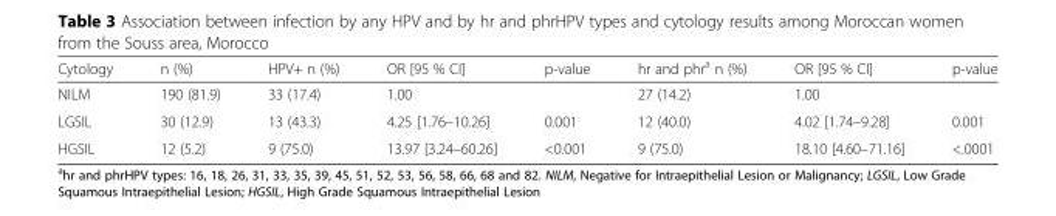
<table><thead><tr><td>Cytology</td><td>n (%)</td><td>HPV+ n (%)</td><td>OR [95 % CI]</td><td>p-value</td><td>hr and phr<sup>a</sup> n (%)</td><td>OR [95 % CI]</td><td>p-value</td></tr></thead><tbody><tr><td>NILM</td><td>190 (81.9)</td><td>33 (17.4)</td><td>1.00</td><td></td><td>27 (14.2)</td><td>1.00</td><td></td></tr><tr><td>LGSIL</td><td>30 (12.9)</td><td>13 (43.3)</td><td>4.25 [1.76–10.26]</td><td>0.001</td><td>12 (40.0)</td><td>4.02 [1.74–9.28]</td><td>0.001</td></tr><tr><td>HGSIL</td><td>12 (5.2)</td><td>9 (75.0)</td><td>13.97 [3.24–60.26]</td><td>&lt;0.001</td><td>9 (75.0)</td><td>18.10 [4.60–71.16]</td><td>&lt;.0001</td></tr></tbody></table>